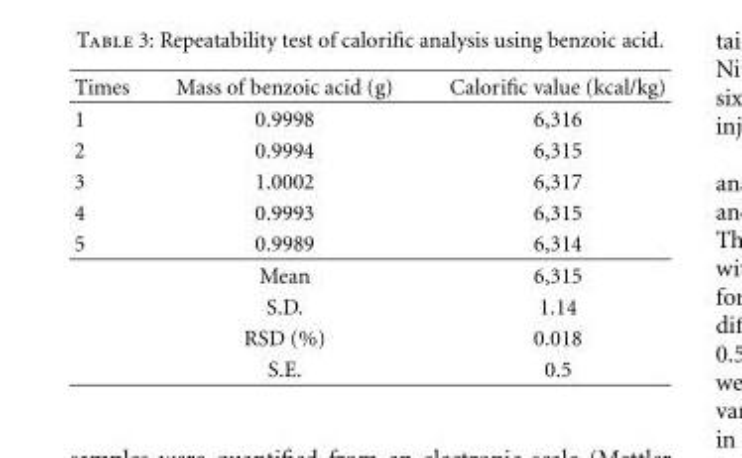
<table><thead><tr><td>Times</td><td>Mass of benzoic acid (g)</td><td>Calorific value (kcal/kg)</td></tr></thead><tbody><tr><td>1</td><td>0.9998</td><td>6,316</td></tr><tr><td>2</td><td>0.9994</td><td>6,315</td></tr><tr><td>3</td><td>1.0002</td><td>6,317</td></tr><tr><td>4</td><td>0.9993</td><td>6,315</td></tr><tr><td rowspan="5">5</td><td>0.9989</td><td>6,314</td></tr><tr><td>Mean</td><td>6,315</td></tr><tr><td>S.D.</td><td>1.14</td></tr><tr><td>RSD (%)</td><td>0.018</td></tr><tr><td>S.E.</td><td>0.5</td></tr></tbody></table>